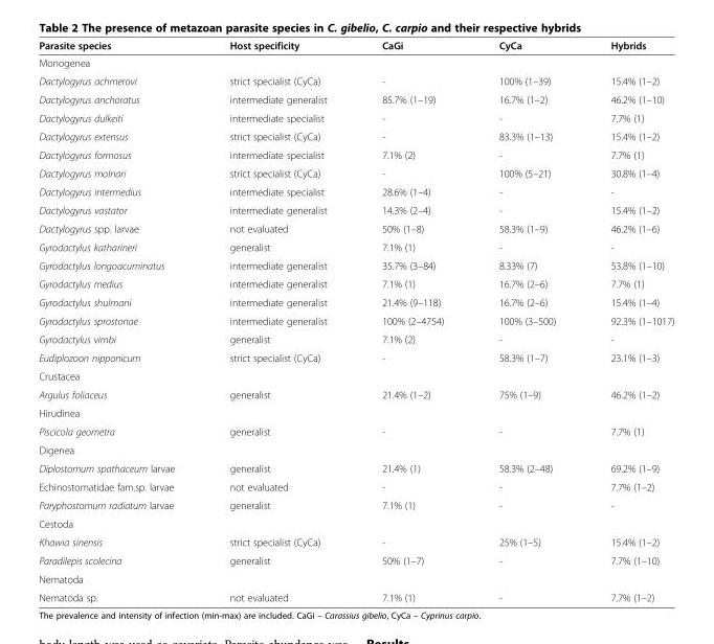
<table><thead><tr><td>Parasite species</td><td>Host specificity</td><td>CaGi</td><td>CyCa</td><td>Hybrids</td></tr></thead><tbody><tr><td colspan="5">Monogenea</td></tr><tr><td>Dactylogyrus achmerovi</td><td>strict specialist (CyCa)</td><td>-</td><td>100% (1–39)</td><td>15.4% (1–2)</td></tr><tr><td>Dactylogyrus anchoratus</td><td>intermediate generalist</td><td>85.7% (1–19)</td><td>16.7% (1–2)</td><td>46.2% (1–10)</td></tr><tr><td>Dactylogyrus dulkeiti</td><td>intermediate specialist</td><td>-</td><td>-</td><td>7.7% (1)</td></tr><tr><td>Dactylogyrus extensus</td><td>strict specialist (CyCa)</td><td>-</td><td>83.3% (1–13)</td><td>15.4% (1–2)</td></tr><tr><td>Dactylogyrus formosus</td><td>intermediate specialist</td><td>7.1% (2)</td><td>-</td><td>7.7% (1)</td></tr><tr><td>Dactylogyrus molnari</td><td>strict specialist (CyCa)</td><td>-</td><td>100% (5–21)</td><td>30.8% (1–4)</td></tr><tr><td>Dactylogyrus intermedius</td><td>intermediate specialist</td><td>28.6% (1–4)</td><td>-</td><td>-</td></tr><tr><td>Dactylogyrus vastator</td><td>intermediate generalist</td><td>14.3% (2–4)</td><td>-</td><td>15.4% (1–2)</td></tr><tr><td>Dactylogyrus spp. larvae</td><td>not evaluated</td><td>50% (1–8)</td><td>58.3% (1–9)</td><td>46.2% (1–6)</td></tr><tr><td>Gyrodactylus katharineri</td><td>generalist</td><td>7.1% (1)</td><td>-</td><td>-</td></tr><tr><td>Gyrodactylus longoacuminatus</td><td>intermediate generalist</td><td>35.7% (3–84)</td><td>8.33% (7)</td><td>53.8% (1–10)</td></tr><tr><td>Gyrodactylus medius</td><td>intermediate generalist</td><td>7.1% (1)</td><td>16.7% (2–6)</td><td>7.7% (1)</td></tr><tr><td>Gyrodactylus shulmani</td><td>intermediate generalist</td><td>21.4% (9–118)</td><td>16.7% (2–6)</td><td>15.4% (1–4)</td></tr><tr><td>Gyrodactylus sprostonae</td><td>intermediate generalist</td><td>100% (2–4754)</td><td>100% (3–500)</td><td>92.3% (1–1017)</td></tr><tr><td>Gyrodactylus vimbi</td><td>generalist</td><td>7.1% (2)</td><td>-</td><td>-</td></tr><tr><td>Eudiplozoon nipponicum</td><td>strict specialist (CyCa)</td><td>-</td><td>58.3% (1–7)</td><td>23.1% (1–3)</td></tr><tr><td colspan="5">Crustacea</td></tr><tr><td>Argulus foliaceus</td><td>generalist</td><td>21.4% (1–2)</td><td>75% (1–9)</td><td>46.2% (1–2)</td></tr><tr><td colspan="5">Hirudinea</td></tr><tr><td>Piscicola geometra</td><td>generalist</td><td>-</td><td>-</td><td>7.7% (1)</td></tr><tr><td colspan="5">Digenea</td></tr><tr><td>Diplostomum spathaceum larvae</td><td>generalist</td><td>21.4% (1)</td><td>58.3% (2–48)</td><td>69.2% (1–9)</td></tr><tr><td>Echinostomatidae fam.sp. larvae</td><td>not evaluated</td><td>-</td><td>-</td><td>7.7% (1–2)</td></tr><tr><td>Paryphostomum radiatum larvae</td><td>generalist</td><td>7.1% (1)</td><td>-</td><td>-</td></tr><tr><td colspan="5">Cestoda</td></tr><tr><td>Khawia sinensis</td><td>strict specialist (CyCa)</td><td>-</td><td>25% (1–5)</td><td>15.4% (1–2)</td></tr><tr><td>Paradilepis scolecina</td><td>generalist</td><td>50% (1–7)</td><td>-</td><td>7.7% (1–10)</td></tr><tr><td colspan="5">Nematoda</td></tr><tr><td>Nematoda sp.</td><td>not evaluated</td><td>7.1% (1)</td><td>-</td><td>7.7% (1–2)</td></tr></tbody></table>